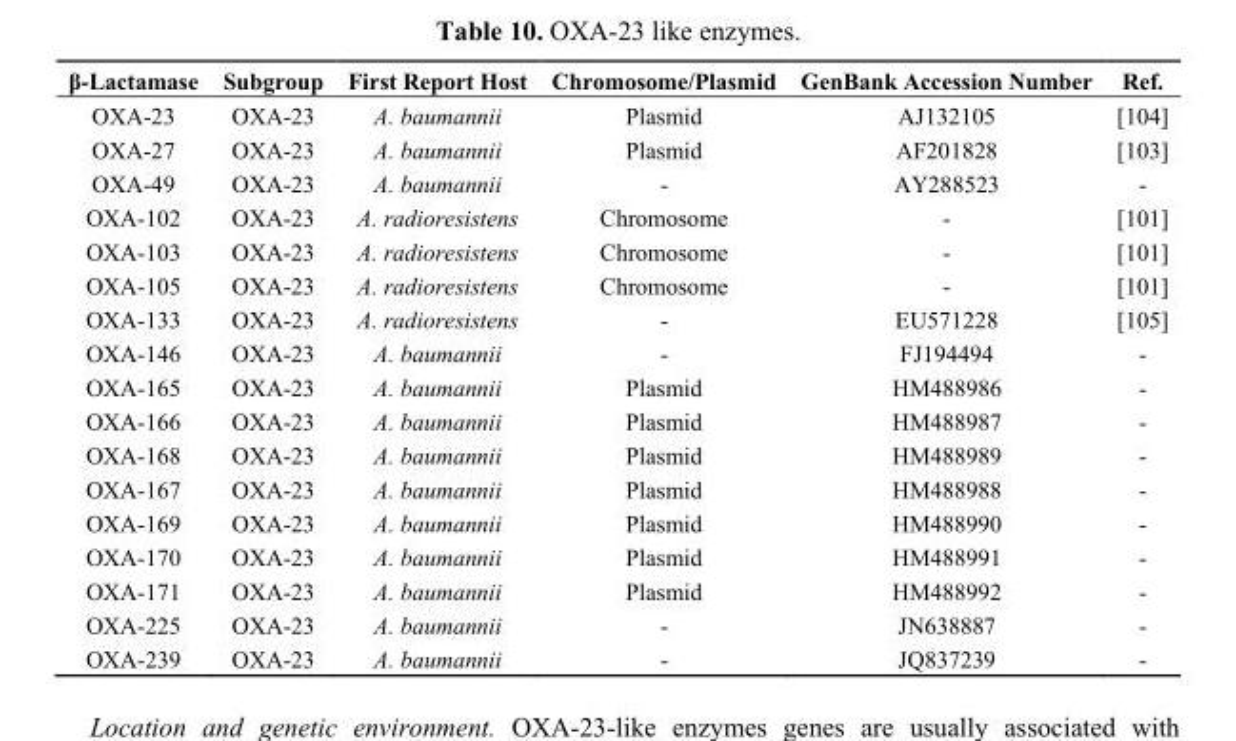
<table><thead><tr><td>β-Lactamase</td><td>Subgroup</td><td>First Report Host</td><td>Chromosome/Plasmid</td><td>GenBank Accession Number</td><td>Ref.</td></tr></thead><tbody><tr><td>OXA-23</td><td>OXA-23</td><td>A. baumannii</td><td>Plasmid</td><td>AJ132105</td><td>[104]</td></tr><tr><td>OXA-27</td><td>OXA-23</td><td>A. baumannii</td><td>Plasmid</td><td>AF201828</td><td>[103]</td></tr><tr><td>OXA-49</td><td>OXA-23</td><td>A. baumannii</td><td>-</td><td>AY288523</td><td>-</td></tr><tr><td>OXA-102</td><td>OXA-23</td><td>A. radioresistens</td><td>Chromosome</td><td>-</td><td>[101]</td></tr><tr><td>OXA-103</td><td>OXA-23</td><td>A. radioresistens</td><td>Chromosome</td><td>-</td><td>[101]</td></tr><tr><td>OXA-105</td><td>OXA-23</td><td>A. radioresistens</td><td>Chromosome</td><td>-</td><td>[101]</td></tr><tr><td>OXA-133</td><td>OXA-23</td><td>A. radioresistens</td><td>-</td><td>EU571228</td><td>[105]</td></tr><tr><td>OXA-146</td><td>OXA-23</td><td>A. baumannii</td><td>-</td><td>FJ194494</td><td>-</td></tr><tr><td>OXA-165</td><td>OXA-23</td><td>A. baumannii</td><td>Plasmid</td><td>HM488986</td><td>-</td></tr><tr><td>OXA-166</td><td>OXA-23</td><td>A. baumannii</td><td>Plasmid</td><td>HM488987</td><td>-</td></tr><tr><td>OXA-168</td><td>OXA-23</td><td>A. baumannii</td><td>Plasmid</td><td>HM488989</td><td>-</td></tr><tr><td>OXA-167</td><td>OXA-23</td><td>A. baumannii</td><td>Plasmid</td><td>HM488988</td><td>-</td></tr><tr><td>OXA-169</td><td>OXA-23</td><td>A. baumannii</td><td>Plasmid</td><td>HM488990</td><td>-</td></tr><tr><td>OXA-170</td><td>OXA-23</td><td>A. baumannii</td><td>Plasmid</td><td>HM488991</td><td>-</td></tr><tr><td>OXA-171</td><td>OXA-23</td><td>A. baumannii</td><td>Plasmid</td><td>HM488992</td><td>-</td></tr><tr><td>OXA-225</td><td>OXA-23</td><td>A. baumannii</td><td>-</td><td>JN638887</td><td>-</td></tr><tr><td>OXA-239</td><td>OXA-23</td><td>A. baumannii</td><td>-</td><td>JQ837239</td><td>-</td></tr></tbody></table>